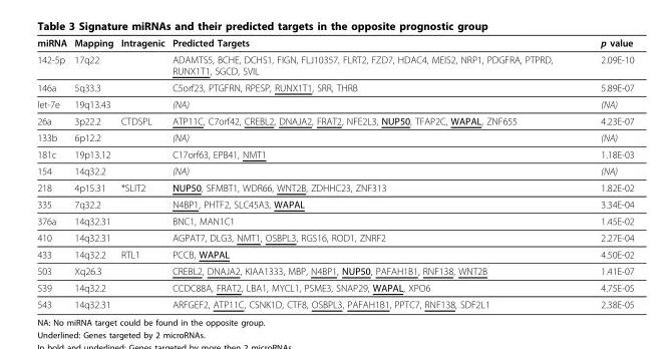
<table><thead><tr><td>miRNA</td><td>Mapping</td><td>Intragenic</td><td>Predicted Targets</td><td>p value</td></tr></thead><tbody><tr><td>142-5p</td><td>17q22</td><td></td><td>ADAMTS5, BCHE, DCHS1, FIGN, FLJ10357, FLRT2, FZD7, HDAC4, MEIS2, NRP1, PDGFRA, PTPRD, RUNX1T1, SGCD, SVIL</td><td>2.09E-10</td></tr><tr><td>146a</td><td>5q33.3</td><td></td><td>C5orf23, PTGFRN, RPESP, RUNX1T1, SRR, THRB</td><td>5.89E-07</td></tr><tr><td>let-7e</td><td>19q13.43</td><td></td><td>(NA)</td><td>(NA)</td></tr><tr><td>26a</td><td>3p22.2</td><td>CTDSPL</td><td>ATP11C, C7orf42, CREBL2, DNAJA2, FRAT2, NFE2L3, NUP50, TFAP2C, WAPAL, ZNF655</td><td>4.23E-07</td></tr><tr><td>133b</td><td>6p12.2</td><td></td><td>(NA)</td><td>(NA)</td></tr><tr><td>181c</td><td>19p13.12</td><td></td><td>C17orf63, EPB41, NMT1</td><td>1.18E-03</td></tr><tr><td>154</td><td>14q32.2</td><td></td><td>(NA)</td><td>(NA)</td></tr><tr><td>218</td><td>4p15.31</td><td>*SLIT2</td><td>NUP50, SFMBT1, WDR66, WNT2B, ZDHHC23, ZNF313</td><td>1.82E-02</td></tr><tr><td>335</td><td>7q32.2</td><td></td><td>N4BP1, PHTF2, SLC45A3, WAPAL</td><td>3.34E-04</td></tr><tr><td>376a</td><td>14q32.31</td><td></td><td>BNC1, MAN1C1</td><td>1.45E-02</td></tr><tr><td>410</td><td>14q32.31</td><td></td><td>AGPAT7, DLG3, NMT1, OSBPL3, RGS16, ROD1, ZNRF2</td><td>2.27E-04</td></tr><tr><td>433</td><td>14q32.2</td><td>RTL1</td><td>PCCB, WAPAL</td><td>4.50E-02</td></tr><tr><td>503</td><td>Xq26.3</td><td></td><td>CREBL2, DNAJA2, KIAA1333, MBP, N4BP1, NUP50, PAFAH1B1, RNF138, WNT2B</td><td>1.41E-07</td></tr><tr><td>539</td><td>14q32.2</td><td></td><td>CCDC88A, FRAT2, LBA1, MYCL1, PSME3, SNAP29, WAPAL, XPO6</td><td>4.75E-05</td></tr><tr><td>543</td><td>14q32.31</td><td></td><td>ARFGEF2, ATP11C, CSNK1D, CTF8, OSBPL3, PAFAH1B1, PPTC7, RNF138, SDF2L1</td><td>2.38E-05</td></tr></tbody></table>